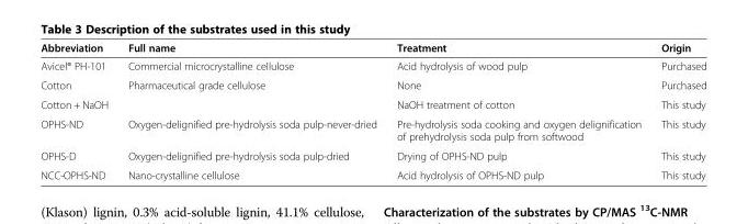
<table><thead><tr><td>Abbreviation</td><td>Full name</td><td>Treatment</td><td>Origin</td></tr></thead><tbody><tr><td>Avicel® PH-101</td><td>Commercial microcrystalline cellulose</td><td>Acid hydrolysis of wood pulp</td><td>Purchased</td></tr><tr><td>Cotton</td><td>Pharmaceutical grade cellulose</td><td>None</td><td>Purchased</td></tr><tr><td>Cotton + NaOH</td><td></td><td>NaOH treatment of cotton</td><td>This study</td></tr><tr><td>OPHS-ND</td><td>Oxygen-delignified pre-hydrolysis soda pulp-never-dried</td><td>Pre-hydrolysis soda cooking and oxygen delignification of prehydrolysis soda pulp from softwood</td><td>This study</td></tr><tr><td>OPHS-D</td><td>Oxygen-delignified pre-hydrolysis soda pulp-dried</td><td>Drying of OPHS-ND pulp</td><td>This study</td></tr><tr><td>NCC-OPHS-ND</td><td>Nano-crystalline cellulose</td><td>Acid hydrolysis of OPHS-ND pulp</td><td>This study</td></tr></tbody></table>